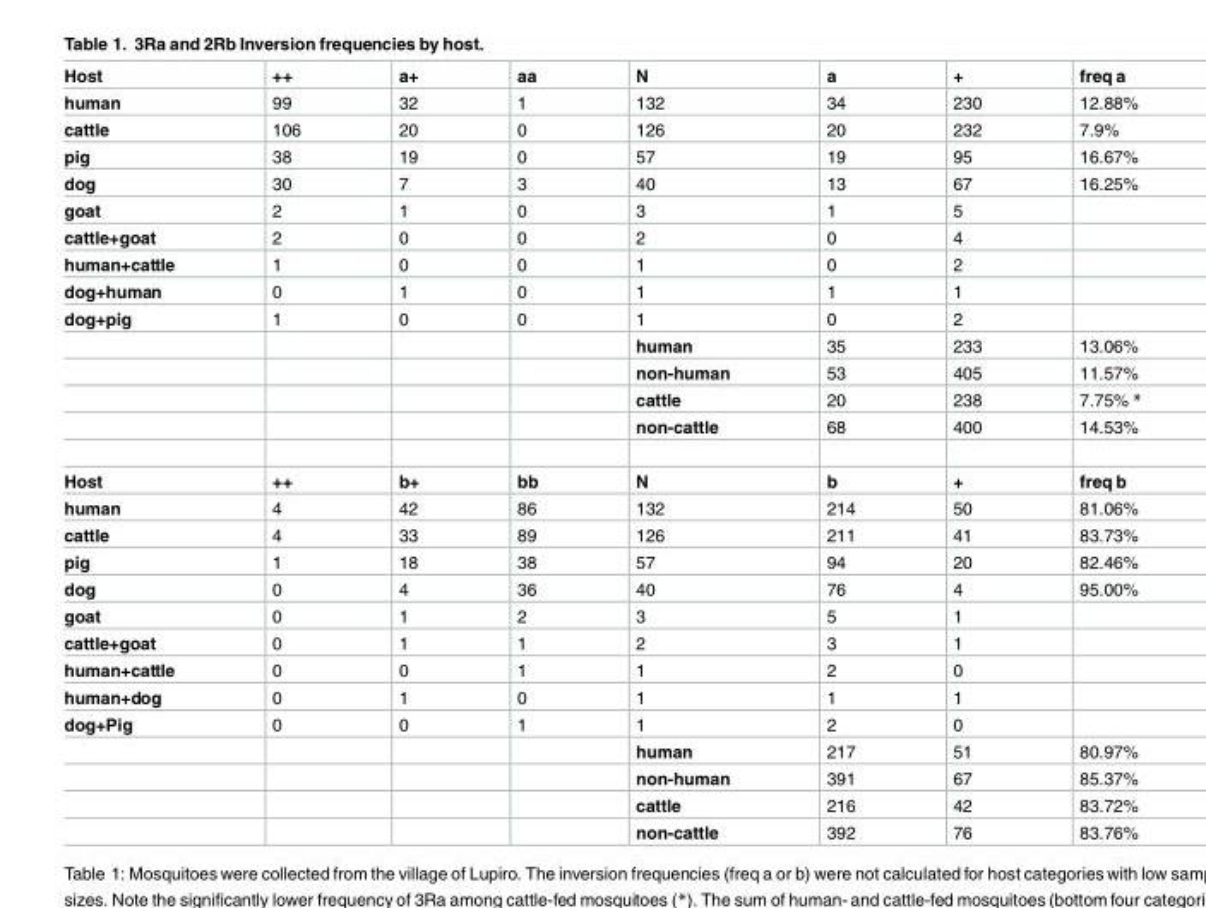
<table><tbody><tr><td>Host</td><td>++</td><td>a+</td><td>aa</td><td>N</td><td>a</td><td>+</td><td>freq a</td></tr><tr><td>human</td><td>99</td><td>32</td><td>1</td><td>132</td><td>34</td><td>230</td><td>12.88%</td></tr><tr><td>cattle</td><td>106</td><td>20</td><td>0</td><td>126</td><td>20</td><td>232</td><td>7.9%</td></tr><tr><td>pig</td><td>38</td><td>19</td><td>0</td><td>57</td><td>19</td><td>95</td><td>16.67%</td></tr><tr><td>dog</td><td>30</td><td>7</td><td>3</td><td>40</td><td>13</td><td>67</td><td>16.25%</td></tr><tr><td>goat</td><td>2</td><td>1</td><td>0</td><td>3</td><td>1</td><td>5</td><td></td></tr><tr><td>cattle+goat</td><td>2</td><td>0</td><td>0</td><td>2</td><td>0</td><td>4</td><td></td></tr><tr><td>human+cattle</td><td>1</td><td>0</td><td>0</td><td>1</td><td>0</td><td>2</td><td></td></tr><tr><td>dog+human</td><td>0</td><td>1</td><td>0</td><td>1</td><td>1</td><td>1</td><td></td></tr><tr><td rowspan="5">dog+pig</td><td>1</td><td>0</td><td>0</td><td>1</td><td>0</td><td>2</td><td></td></tr><tr><td></td><td></td><td></td><td>human</td><td>35</td><td>233</td><td>13.06%</td></tr><tr><td></td><td></td><td></td><td>non-human</td><td>53</td><td>405</td><td>11.57%</td></tr><tr><td></td><td></td><td></td><td>cattle</td><td>20</td><td>238</td><td>7.75% *</td></tr><tr><td></td><td></td><td></td><td>non-cattle</td><td>68</td><td>400</td><td>14.53%</td></tr><tr><td>Host</td><td>++</td><td>b+</td><td>bb</td><td>N</td><td>b</td><td>+</td><td>freq b</td></tr><tr><td>human</td><td>4</td><td>42</td><td>86</td><td>132</td><td>214</td><td>50</td><td>81.06%</td></tr><tr><td>cattle</td><td>4</td><td>33</td><td>89</td><td>126</td><td>211</td><td>41</td><td>83.73%</td></tr><tr><td>pig</td><td>1</td><td>18</td><td>38</td><td>57</td><td>94</td><td>20</td><td>82.46%</td></tr><tr><td>dog</td><td>0</td><td>4</td><td>36</td><td>40</td><td>76</td><td>4</td><td>95.00%</td></tr><tr><td>goat</td><td>0</td><td>1</td><td>2</td><td>3</td><td>5</td><td>1</td><td></td></tr><tr><td>cattle+goat</td><td>0</td><td>1</td><td>1</td><td>2</td><td>3</td><td>1</td><td></td></tr><tr><td>human+cattle</td><td>0</td><td>0</td><td>1</td><td>1</td><td>2</td><td>0</td><td></td></tr><tr><td>human+dog</td><td>0</td><td>1</td><td>0</td><td>1</td><td>1</td><td>1</td><td></td></tr><tr><td>dog+Pig</td><td>0</td><td>0</td><td>1</td><td>1</td><td>2</td><td>0</td><td></td></tr><tr><td rowspan="4" colspan="4"></td><td>human</td><td>217</td><td>51</td><td>80.97%</td></tr><tr><td>non-human</td><td>391</td><td>67</td><td>85.37%</td></tr><tr><td>cattle</td><td>216</td><td>42</td><td>83.72%</td></tr><tr><td>non-cattle</td><td>392</td><td>76</td><td>83.76%</td></tr></tbody></table>